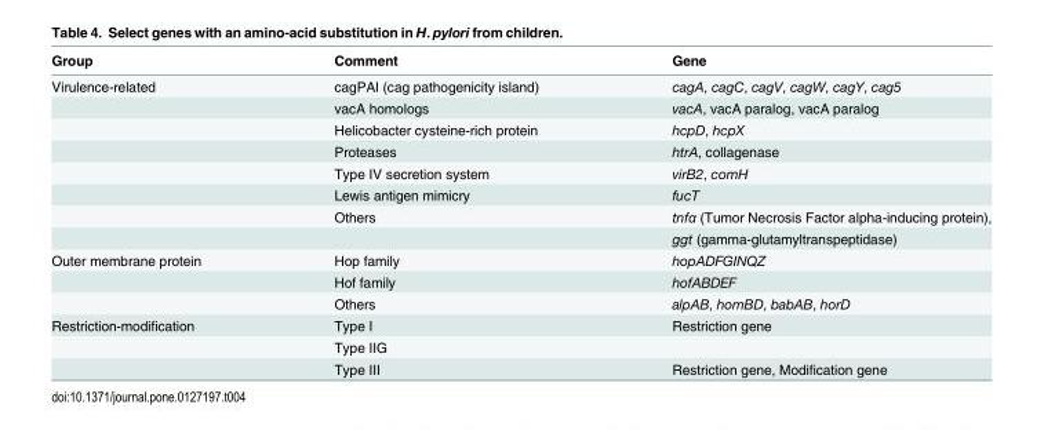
<table><thead><tr><td>Group</td><td>Comment</td><td>Gene</td></tr></thead><tbody><tr><td rowspan="8">Virulence-related</td><td>cagPAI (cag pathogenicity island)</td><td>cagA, cagC, cagV, cagW, cagY, cag5</td></tr><tr><td>vacA homologs</td><td>vacA, vacA paralog, vacA paralog</td></tr><tr><td>Helicobacter cysteine-rich protein</td><td>hcpD, hcpX</td></tr><tr><td>Proteases</td><td>htrA, collagenase</td></tr><tr><td>Type IV secretion system</td><td>virB2, comH</td></tr><tr><td>Lewis antigen mimicry</td><td>fucT</td></tr><tr><td>Others</td><td>tnfα (Tumor Necrosis Factor alpha-inducing protein),</td></tr><tr><td></td><td>ggt (gamma-glutamyltranspeptidase)</td></tr><tr><td rowspan="3">Outer membrane protein</td><td>Hop family</td><td>hopADFGINQZ</td></tr><tr><td>Hof family</td><td>hofABDEF</td></tr><tr><td>Others</td><td>alpAB, homBD, babAB, horD</td></tr><tr><td rowspan="3">Restriction-modification</td><td>Type I</td><td>Restriction gene</td></tr><tr><td>Type IIG</td><td></td></tr><tr><td>Type III</td><td>Restriction gene, Modification gene</td></tr></tbody></table>